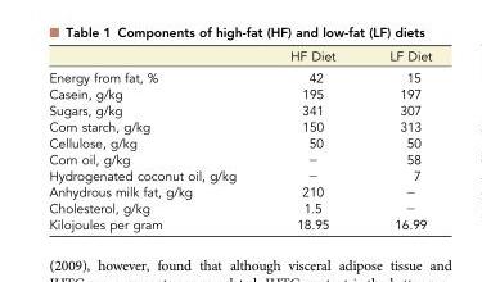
<table><thead><tr><td></td><td>HF Diet</td><td>LF Diet</td></tr></thead><tbody><tr><td>Energy from fat, %</td><td>42</td><td>15</td></tr><tr><td>Casein, g/kg</td><td>195</td><td>197</td></tr><tr><td>Sugars, g/kg</td><td>341</td><td>307</td></tr><tr><td>Corn starch, g/kg</td><td>150</td><td>313</td></tr><tr><td>Cellulose, g/kg</td><td>50</td><td>50</td></tr><tr><td>Corn oil, g/kg</td><td>−</td><td>58</td></tr><tr><td>Hydrogenated coconut oil, g/kg</td><td>−</td><td>7</td></tr><tr><td>Anhydrous milk fat, g/kg</td><td>210</td><td>−</td></tr><tr><td>Cholesterol, g/kg</td><td>1.5</td><td>−</td></tr><tr><td>Kilojoules per gram</td><td>18.95</td><td>16.99</td></tr></tbody></table>